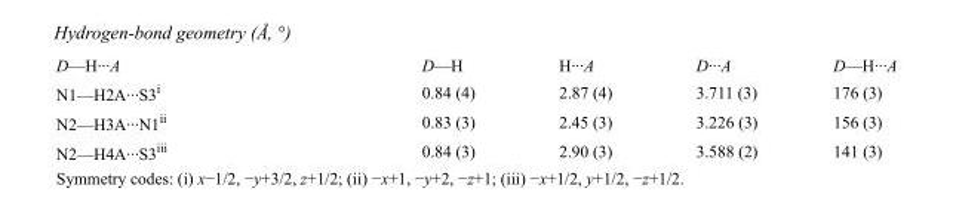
<table><tbody><tr><td>D—H···A</td><td>D—H</td><td>H···A</td><td>D···A</td><td>D—H···A</td></tr><tr><td>N1—H2A···S3<sup>i</sup></td><td>0.84 (4)</td><td>2.87 (4)</td><td>3.711 (3)</td><td>176 (3)</td></tr><tr><td>N2—H3A···N1<sup>ii</sup></td><td>0.83 (3)</td><td>2.45 (3)</td><td>3.226 (3)</td><td>156 (3)</td></tr><tr><td>N2—H4A···S3<sup>iii</sup></td><td>0.84 (3)</td><td>2.90 (3)</td><td>3.588 (2)</td><td>141 (3)</td></tr></tbody></table>